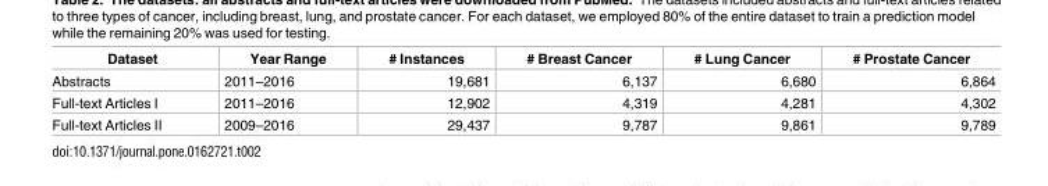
<table><thead><tr><td>Dataset</td><td>Year Range</td><td># Instances</td><td># Breast Cancer</td><td># Lung Cancer</td><td># Prostate Cancer</td></tr></thead><tbody><tr><td>Abstracts</td><td>2011–2016</td><td>19,681</td><td>6,137</td><td>6,680</td><td>6,864</td></tr><tr><td>Full-text Articles I</td><td>2011–2016</td><td>12,902</td><td>4,319</td><td>4,281</td><td>4,302</td></tr><tr><td>Full-text Articles II</td><td>2009–2016</td><td>29,437</td><td>9,787</td><td>9,861</td><td>9,789</td></tr></tbody></table>